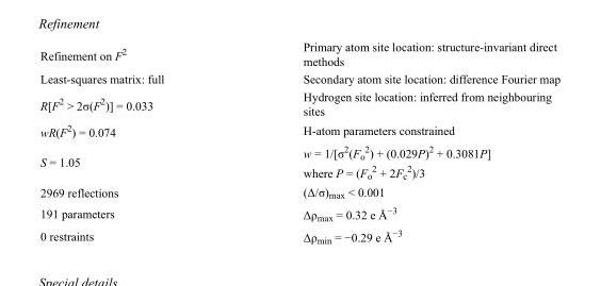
<table><tbody><tr><td>Refinement on F<sup>2</sup></td><td>Primary atom site location: structure-invariant direct methods</td></tr><tr><td>Least-squares matrix: full</td><td>Secondary atom site location: difference Fourier map</td></tr><tr><td>R[F<sup>2</sup> &gt; 2σ(F<sup>2</sup>)] = 0.033</td><td>Hydrogen site location: inferred from neighbouring sites</td></tr><tr><td>wR(F<sup>2</sup>) = 0.074</td><td>H-atom parameters constrained</td></tr><tr><td>S = 1.05</td><td>w = 1/[σ<sup>2</sup>(F<sub>o</sub> <sup>2</sup>) + (0.029P)<sup>2</sup> + 0.3081P] where P = (F<sub>o</sub> <sup>2</sup> + 2F<sub>c</sub> <sup>2</sup>)/3</td></tr><tr><td>2969 reflections</td><td>(Δ/σ)<sub>max</sub> &lt; 0.001</td></tr><tr><td>191 parameters</td><td>Δρ<sub>max</sub> = 0.32 e Å<sup>−3</sup></td></tr><tr><td>0 restraints</td><td>Δρ<sub>min</sub> = −0.29 e Å<sup>−3</sup></td></tr></tbody></table>